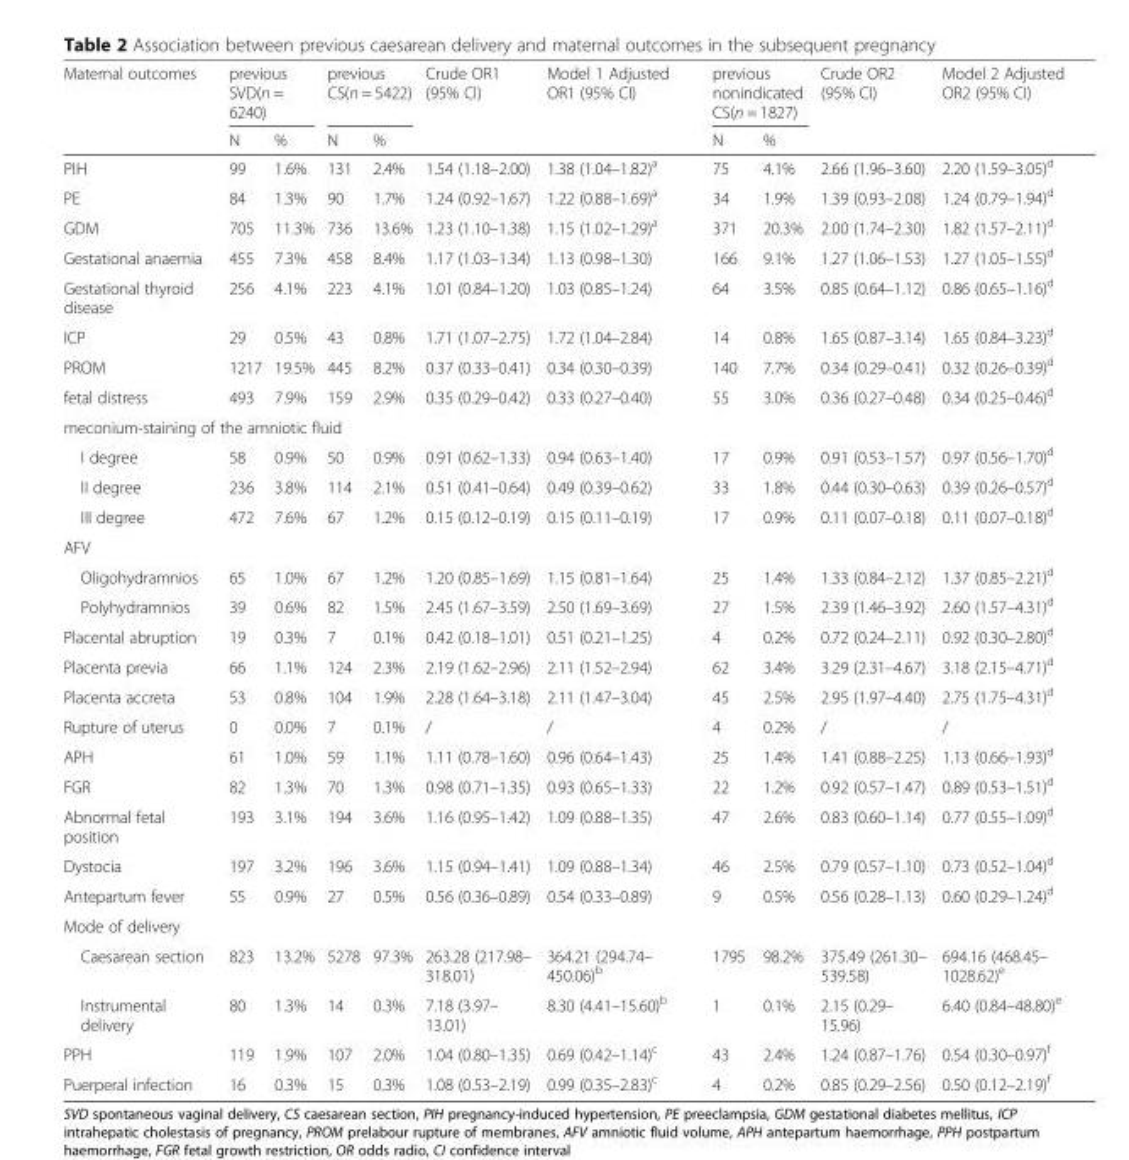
<table><thead><tr><td rowspan="2">Maternal outcomes</td><td colspan="2">previous SVD(n = 6240)</td><td colspan="2">previous CS(n = 5422)</td><td rowspan="2">Crude OR1 (95% CI)</td><td rowspan="2">Model 1 Adjusted OR1 (95% CI)</td><td colspan="2">previous nonindicated CS(n = 1827)</td><td rowspan="2">Crude OR2 (95% CI)</td><td rowspan="2">Model 2 Adjusted OR2 (95% CI)</td></tr><tr><td>N</td><td>%</td><td>N</td><td>%</td><td>N</td><td>%</td></tr></thead><tbody><tr><td>PIH</td><td>99</td><td>1.6%</td><td>131</td><td>2.4%</td><td>1.54 (1.18–2.00)</td><td>1.38 (1.04–1.82)<sup>a</sup></td><td>75</td><td>4.1%</td><td>2.66 (1.96–3.60)</td><td>2.20 (1.59–3.05)<sup>d</sup></td></tr><tr><td>PE</td><td>84</td><td>1.3%</td><td>90</td><td>1.7%</td><td>1.24 (0.92–1.67)</td><td>1.22 (0.88–1.69)<sup>a</sup></td><td>34</td><td>1.9%</td><td>1.39 (0.93–2.08)</td><td>1.24 (0.79–1.94)<sup>d</sup></td></tr><tr><td>GDM</td><td>705</td><td>11.3%</td><td>736</td><td>13.6%</td><td>1.23 (1.10–1.38)</td><td>1.15 (1.02–1.29)<sup>a</sup></td><td>371</td><td>20.3%</td><td>2.00 (1.74–2.30)</td><td>1.82 (1.57–2.11)<sup>d</sup></td></tr><tr><td>Gestational anaemia</td><td>455</td><td>7.3%</td><td>458</td><td>8.4%</td><td>1.17 (1.03–1.34)</td><td>1.13 (0.98–1.30)</td><td>166</td><td>9.1%</td><td>1.27 (1.06–1.53)</td><td>1.27 (1.05–1.55)<sup>d</sup></td></tr><tr><td>Gestational thyroid disease</td><td>256</td><td>4.1%</td><td>223</td><td>4.1%</td><td>1.01 (0.84–1.20)</td><td>1.03 (0.85–1.24)</td><td>64</td><td>3.5%</td><td>0.85 (0.64–1.12)</td><td>0.86 (0.65–1.16)<sup>d</sup></td></tr><tr><td>ICP</td><td>29</td><td>0.5%</td><td>43</td><td>0.8%</td><td>1.71 (1.07–2.75)</td><td>1.72 (1.04–2.84)</td><td>14</td><td>0.8%</td><td>1.65 (0.87–3.14)</td><td>1.65 (0.84–3.23)<sup>d</sup></td></tr><tr><td>PROM</td><td>1217</td><td>19.5%</td><td>445</td><td>8.2%</td><td>0.37 (0.33–0.41)</td><td>0.34 (0.30–0.39)</td><td>140</td><td>7.7%</td><td>0.34 (0.29–0.41)</td><td>0.32 (0.26–0.39)<sup>d</sup></td></tr><tr><td>fetal distress</td><td>493</td><td>7.9%</td><td>159</td><td>2.9%</td><td>0.35 (0.29–0.42)</td><td>0.33 (0.27–0.40)</td><td>55</td><td>3.0%</td><td>0.36 (0.27–0.48)</td><td>0.34 (0.25–0.46)<sup>d</sup></td></tr><tr><td colspan="11">meconium-staining of the amniotic fluid</td></tr><tr><td>I degree</td><td>58</td><td>0.9%</td><td>50</td><td>0.9%</td><td>0.91 (0.62–1.33)</td><td>0.94 (0.63–1.40)</td><td>17</td><td>0.9%</td><td>0.91 (0.53–1.57)</td><td>0.97 (0.56–1.70)<sup>d</sup></td></tr><tr><td>II degree</td><td>236</td><td>3.8%</td><td>114</td><td>2.1%</td><td>0.51 (0.41–0.64)</td><td>0.49 (0.39–0.62)</td><td>33</td><td>1.8%</td><td>0.44 (0.30–0.63)</td><td>0.39 (0.26–0.57)<sup>d</sup></td></tr><tr><td>III degree</td><td>472</td><td>7.6%</td><td>67</td><td>1.2%</td><td>0.15 (0.12–0.19)</td><td>0.15 (0.11–0.19)</td><td>17</td><td>0.9%</td><td>0.11 (0.07–0.18)</td><td>0.11 (0.07–0.18)<sup>d</sup></td></tr><tr><td colspan="11">AFV</td></tr><tr><td>Oligohydramnios</td><td>65</td><td>1.0%</td><td>67</td><td>1.2%</td><td>1.20 (0.85–1.69)</td><td>1.15 (0.81–1.64)</td><td>25</td><td>1.4%</td><td>1.33 (0.84–2.12)</td><td>1.37 (0.85–2.21)<sup>d</sup></td></tr><tr><td>Polyhydramnios</td><td>39</td><td>0.6%</td><td>82</td><td>1.5%</td><td>2.45 (1.67–3.59)</td><td>2.50 (1.69–3.69)</td><td>27</td><td>1.5%</td><td>2.39 (1.46–3.92)</td><td>2.60 (1.57–4.31)<sup>d</sup></td></tr><tr><td>Placental abruption</td><td>19</td><td>0.3%</td><td>7</td><td>0.1%</td><td>0.42 (0.18–1.01)</td><td>0.51 (0.21–1.25)</td><td>4</td><td>0.2%</td><td>0.72 (0.24–2.11)</td><td>0.92 (0.30–2.80)<sup>d</sup></td></tr><tr><td>Placenta previa</td><td>66</td><td>1.1%</td><td>124</td><td>2.3%</td><td>2.19 (1.62–2.96)</td><td>2.11 (1.52–2.94)</td><td>62</td><td>3.4%</td><td>3.29 (2.31–4.67)</td><td>3.18 (2.15–4.71)<sup>d</sup></td></tr><tr><td>Placenta accreta</td><td>53</td><td>0.8%</td><td>104</td><td>1.9%</td><td>2.28 (1.64–3.18)</td><td>2.11 (1.47–3.04)</td><td>45</td><td>2.5%</td><td>2.95 (1.97–4.40)</td><td>2.75 (1.75–4.31)<sup>d</sup></td></tr><tr><td>Rupture of uterus</td><td>0</td><td>0.0%</td><td>7</td><td>0.1%</td><td>/</td><td>/</td><td>4</td><td>0.2%</td><td>/</td><td>/</td></tr><tr><td>APH</td><td>61</td><td>1.0%</td><td>59</td><td>1.1%</td><td>1.11 (0.78–1.60)</td><td>0.96 (0.64–1.43)</td><td>25</td><td>1.4%</td><td>1.41 (0.88–2.25)</td><td>1.13 (0.66–1.93)<sup>d</sup></td></tr><tr><td>FGR</td><td>82</td><td>1.3%</td><td>70</td><td>1.3%</td><td>0.98 (0.71–1.35)</td><td>0.93 (0.65–1.33)</td><td>22</td><td>1.2%</td><td>0.92 (0.57–1.47)</td><td>0.89 (0.53–1.51)<sup>d</sup></td></tr><tr><td>Abnormal fetal position</td><td>193</td><td>3.1%</td><td>194</td><td>3.6%</td><td>1.16 (0.95–1.42)</td><td>1.09 (0.88–1.35)</td><td>47</td><td>2.6%</td><td>0.83 (0.60–1.14)</td><td>0.77 (0.55–1.09)<sup>d</sup></td></tr><tr><td>Dystocia</td><td>197</td><td>3.2%</td><td>196</td><td>3.6%</td><td>1.15 (0.94–1.41)</td><td>1.09 (0.88–1.34)</td><td>46</td><td>2.5%</td><td>0.79 (0.57–1.10)</td><td>0.73 (0.52–1.04)<sup>d</sup></td></tr><tr><td>Antepartum fever</td><td>55</td><td>0.9%</td><td>27</td><td>0.5%</td><td>0.56 (0.36–0.89)</td><td>0.54 (0.33–0.89)</td><td>9</td><td>0.5%</td><td>0.56 (0.28–1.13)</td><td>0.60 (0.29–1.24)<sup>d</sup></td></tr><tr><td colspan="11">Mode of delivery</td></tr><tr><td>Caesarean section</td><td>823</td><td>13.2%</td><td>5278</td><td>97.3%</td><td>263.28 (217.98– 318.01)</td><td>364.21 (294.74– 450.06)<sup>b</sup></td><td>1795</td><td>98.2%</td><td>375.49 (261.30– 539.58)</td><td>694.16 (468.45– 1028.62)<sup>e</sup></td></tr><tr><td>Instrumental delivery</td><td>80</td><td>1.3%</td><td>14</td><td>0.3%</td><td>7.18 (3.97– 13.01)</td><td>8.30 (4.41–15.60)<sup>b</sup></td><td>1</td><td>0.1%</td><td>2.15 (0.29– 15.96)</td><td>6.40 (0.84–48.80)<sup>e</sup></td></tr><tr><td>PPH</td><td>119</td><td>1.9%</td><td>107</td><td>2.0%</td><td>1.04 (0.80–1.35)</td><td>0.69 (0.42–1.14)<sup>c</sup></td><td>43</td><td>2.4%</td><td>1.24 (0.87–1.76)</td><td>0.54 (0.30–0.97)<sup>f</sup></td></tr><tr><td>Puerperal infection</td><td>16</td><td>0.3%</td><td>15</td><td>0.3%</td><td>1.08 (0.53–2.19)</td><td>0.99 (0.35–2.83)<sup>c</sup></td><td>4</td><td>0.2%</td><td>0.85 (0.29–2.56)</td><td>0.50 (0.12–2.19)<sup>f</sup></td></tr></tbody></table>